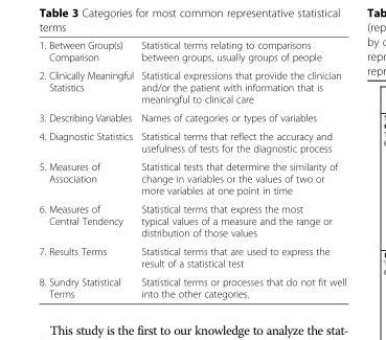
<table><tbody><tr><td>1. Between Group(s) Comparison</td><td>Statistical terms relating to comparisons between groups, usually groups of people</td></tr><tr><td>2. Clinically Meaningful Statistics</td><td>Statistical expressions that provide the clinician and/or the patient with information that is meaningful to clinical care</td></tr><tr><td>3. Describing Variables</td><td>Names of categories or types of variables</td></tr><tr><td>4. Diagnostic Statistics</td><td>Statistical terms that reflect the accuracy and usefulness of tests for the diagnostic process</td></tr><tr><td>5. Measures of Association</td><td>Statistical tests that determine the similarity of change in variables or the values of two or more variables at one point in time</td></tr><tr><td>6. Measures of Central Tendency</td><td>Statistical terms that express the most typical values of a measure and the range or distribution of those values</td></tr><tr><td>7. Results Terms</td><td>Statistical terms that are used to express the result of a statistical test</td></tr><tr><td>8. Sundry Statistical Terms</td><td>Statistical terms or processes that do not fit well into the other categories.</td></tr></tbody></table>